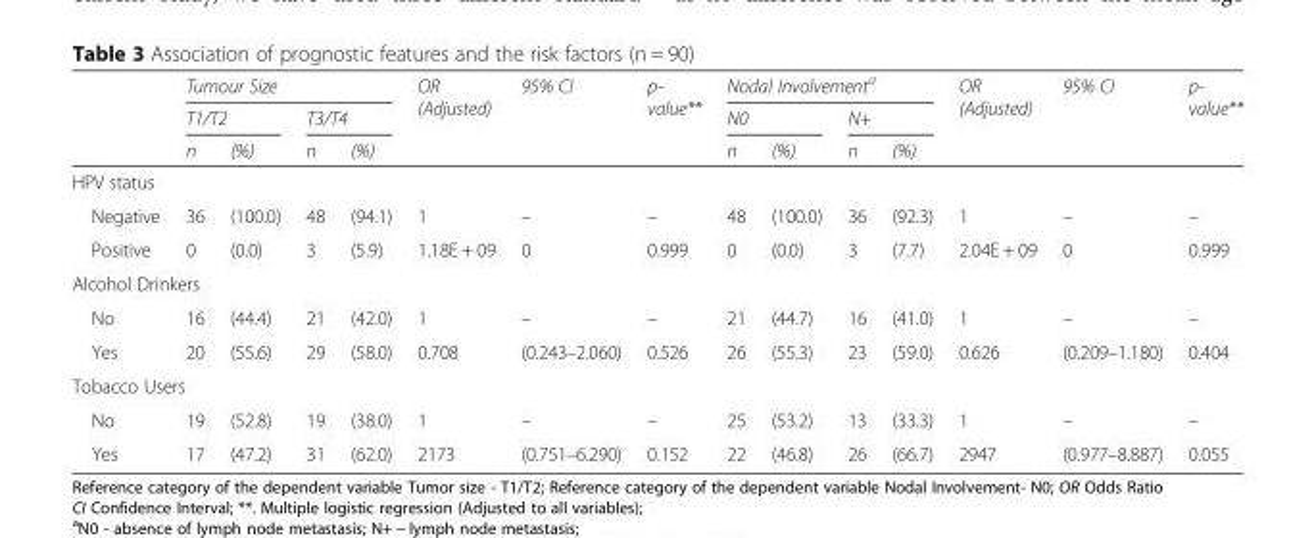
<table><thead><tr><td rowspan="3"></td><td colspan="4">Tumour Size</td><td rowspan="3">OR (Adjusted)</td><td rowspan="3">95% CI</td><td rowspan="3">p- value**</td><td colspan="4">Nodal Involvement<sup>a</sup></td><td rowspan="3">OR (Adjusted)</td><td rowspan="3">95% CI</td><td rowspan="3">p- value**</td></tr><tr><td colspan="2">T1/T2</td><td colspan="2">T3/T4</td><td colspan="2">N0</td><td colspan="2">N+</td></tr><tr><td>n</td><td>(%)</td><td>n</td><td>(%)</td><td>n</td><td>(%)</td><td>n</td><td>(%)</td></tr></thead><tbody><tr><td colspan="15">HPV status</td></tr><tr><td>Negative</td><td>36</td><td>(100.0)</td><td>48</td><td>(94.1)</td><td>1</td><td>–</td><td>–</td><td>48</td><td>(100.0)</td><td>36</td><td>(92.3)</td><td>1</td><td>–</td><td>–</td></tr><tr><td>Positive</td><td>0</td><td>(0.0)</td><td>3</td><td>(5.9)</td><td>1.18E + 09</td><td>0</td><td>0.999</td><td>0</td><td>(0.0)</td><td>3</td><td>(7.7)</td><td>2.04E + 09</td><td>0</td><td>0.999</td></tr><tr><td colspan="15">Alcohol Drinkers</td></tr><tr><td>No</td><td>16</td><td>(44.4)</td><td>21</td><td>(42.0)</td><td>1</td><td>–</td><td>–</td><td>21</td><td>(44.7)</td><td>16</td><td>(41.0)</td><td>1</td><td>–</td><td>–</td></tr><tr><td>Yes</td><td>20</td><td>(55.6)</td><td>29</td><td>(58.0)</td><td>0.708</td><td>(0.243–2.060)</td><td>0.526</td><td>26</td><td>(55.3)</td><td>23</td><td>(59.0)</td><td>0.626</td><td>(0.209–1.180)</td><td>0.404</td></tr><tr><td colspan="15">Tobacco Users</td></tr><tr><td>No</td><td>19</td><td>(52.8)</td><td>19</td><td>(38.0)</td><td>1</td><td>–</td><td>–</td><td>25</td><td>(53.2)</td><td>13</td><td>(33.3)</td><td>1</td><td>–</td><td>–</td></tr><tr><td>Yes</td><td>17</td><td>(47.2)</td><td>31</td><td>(62.0)</td><td>2173</td><td>(0.751–6.290)</td><td>0.152</td><td>22</td><td>(46.8)</td><td>26</td><td>(66.7)</td><td>2947</td><td>(0.977–8.887)</td><td>0.055</td></tr></tbody></table>